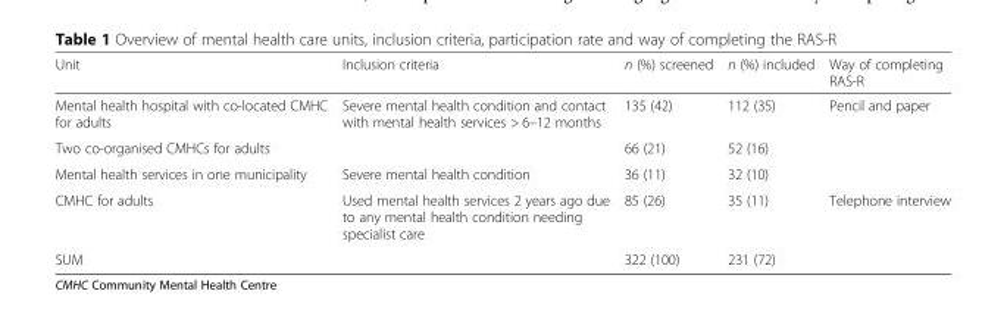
<table><thead><tr><td>Unit</td><td>Inclusion criteria</td><td>n (%) screened</td><td>n (%) included</td><td>Way of completing RAS-R</td></tr></thead><tbody><tr><td>Mental health hospital with co-located CMHC for adults</td><td rowspan="2">Severe mental health condition and contact with mental health services &gt; 6–12 months</td><td>135 (42)</td><td>112 (35)</td><td rowspan="3">Pencil and paper</td></tr><tr><td>Two co-organised CMHCs for adults</td><td>66 (21)</td><td>52 (16)</td></tr><tr><td>Mental health services in one municipality</td><td>Severe mental health condition</td><td>36 (11)</td><td>32 (10)</td></tr><tr><td>CMHC for adults</td><td>Used mental health services 2 years ago due to any mental health condition needing specialist care</td><td>85 (26)</td><td>35 (11)</td><td>Telephone interview</td></tr><tr><td>SUM</td><td></td><td>322 (100)</td><td>231 (72)</td><td></td></tr></tbody></table>